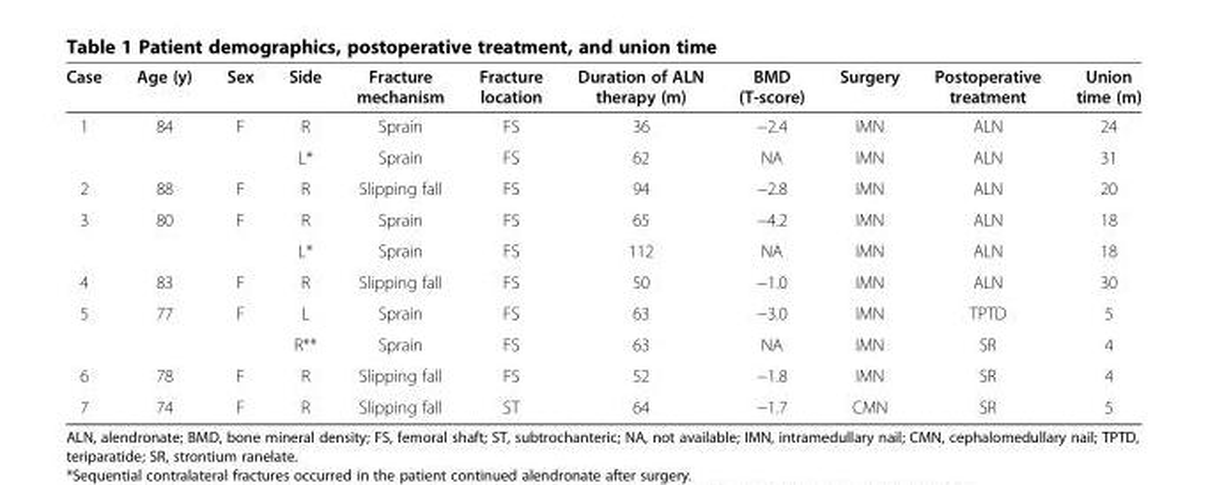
<table><thead><tr><td>Case</td><td>Age (y)</td><td>Sex</td><td>Side</td><td>Fracture mechanism</td><td>Fracture location</td><td>Duration of ALN therapy (m)</td><td>BMD (T-score)</td><td>Surgery</td><td>Postoperative treatment</td><td>Union time (m)</td></tr></thead><tbody><tr><td rowspan="2">1</td><td>84</td><td>F</td><td>R</td><td>Sprain</td><td>FS</td><td>36</td><td>−2.4</td><td>IMN</td><td>ALN</td><td>24</td></tr><tr><td></td><td></td><td>L*</td><td>Sprain</td><td>FS</td><td>62</td><td>NA</td><td>IMN</td><td>ALN</td><td>31</td></tr><tr><td>2</td><td>88</td><td>F</td><td>R</td><td>Slipping fall</td><td>FS</td><td>94</td><td>−2.8</td><td>IMN</td><td>ALN</td><td>20</td></tr><tr><td rowspan="2">3</td><td>80</td><td>F</td><td>R</td><td>Sprain</td><td>FS</td><td>65</td><td>−4.2</td><td>IMN</td><td>ALN</td><td>18</td></tr><tr><td></td><td></td><td>L*</td><td>Sprain</td><td>FS</td><td>112</td><td>NA</td><td>IMN</td><td>ALN</td><td>18</td></tr><tr><td>4</td><td>83</td><td>F</td><td>R</td><td>Slipping fall</td><td>FS</td><td>50</td><td>−1.0</td><td>IMN</td><td>ALN</td><td>30</td></tr><tr><td rowspan="2">5</td><td>77</td><td>F</td><td>L</td><td>Sprain</td><td>FS</td><td>63</td><td>−3.0</td><td>IMN</td><td>TPTD</td><td>5</td></tr><tr><td></td><td></td><td>R**</td><td>Sprain</td><td>FS</td><td>63</td><td>NA</td><td>IMN</td><td>SR</td><td>4</td></tr><tr><td>6</td><td>78</td><td>F</td><td>R</td><td>Slipping fall</td><td>FS</td><td>52</td><td>−1.8</td><td>IMN</td><td>SR</td><td>4</td></tr><tr><td>7</td><td>74</td><td>F</td><td>R</td><td>Slipping fall</td><td>ST</td><td>64</td><td>−1.7</td><td>CMN</td><td>SR</td><td>5</td></tr></tbody></table>